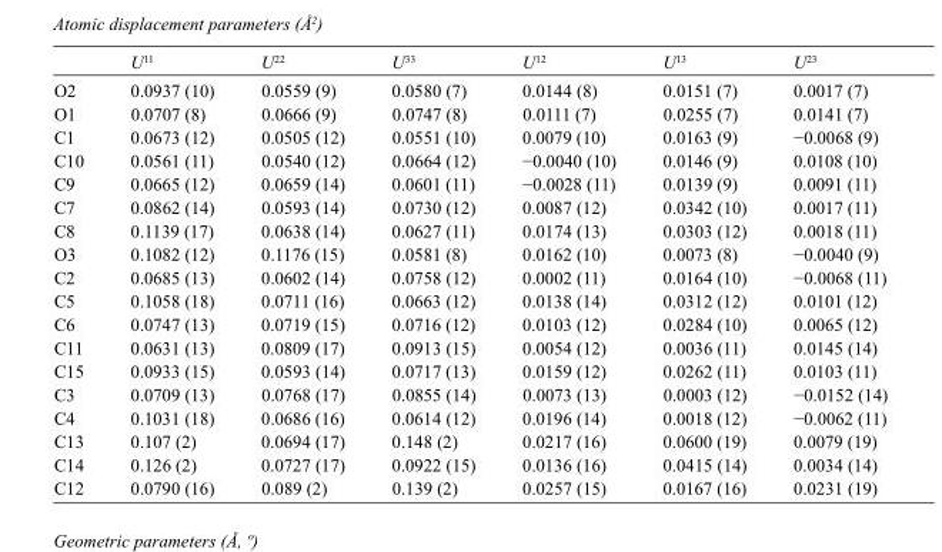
<table><thead><tr><td></td><td>U<sup>11</sup></td><td>U<sup>22</sup></td><td>U<sup>33</sup></td><td>U<sup>12</sup></td><td>U<sup>13</sup></td><td>U<sup>23</sup></td></tr></thead><tbody><tr><td>O2</td><td>0.0937 (10)</td><td>0.0559 (9)</td><td>0.0580 (7)</td><td>0.0144 (8)</td><td>0.0151 (7)</td><td>0.0017 (7)</td></tr><tr><td>O1</td><td>0.0707 (8)</td><td>0.0666 (9)</td><td>0.0747 (8)</td><td>0.0111 (7)</td><td>0.0255 (7)</td><td>0.0141 (7)</td></tr><tr><td>C1</td><td>0.0673 (12)</td><td>0.0505 (12)</td><td>0.0551 (10)</td><td>0.0079 (10)</td><td>0.0163 (9)</td><td>−0.0068 (9)</td></tr><tr><td>C10</td><td>0.0561 (11)</td><td>0.0540 (12)</td><td>0.0664 (12)</td><td>−0.0040 (10)</td><td>0.0146 (9)</td><td>0.0108 (10)</td></tr><tr><td>C9</td><td>0.0665 (12)</td><td>0.0659 (14)</td><td>0.0601 (11)</td><td>−0.0028 (11)</td><td>0.0139 (9)</td><td>0.0091 (11)</td></tr><tr><td>C7</td><td>0.0862 (14)</td><td>0.0593 (14)</td><td>0.0730 (12)</td><td>0.0087 (12)</td><td>0.0342 (10)</td><td>0.0017 (11)</td></tr><tr><td>C8</td><td>0.1139 (17)</td><td>0.0638 (14)</td><td>0.0627 (11)</td><td>0.0174 (13)</td><td>0.0303 (12)</td><td>0.0018 (11)</td></tr><tr><td>O3</td><td>0.1082 (12)</td><td>0.1176 (15)</td><td>0.0581 (8)</td><td>0.0162 (10)</td><td>0.0073 (8)</td><td>−0.0040 (9)</td></tr><tr><td>C2</td><td>0.0685 (13)</td><td>0.0602 (14)</td><td>0.0758 (12)</td><td>0.0002 (11)</td><td>0.0164 (10)</td><td>−0.0068 (11)</td></tr><tr><td>C5</td><td>0.1058 (18)</td><td>0.0711 (16)</td><td>0.0663 (12)</td><td>0.0138 (14)</td><td>0.0312 (12)</td><td>0.0101 (12)</td></tr><tr><td>C6</td><td>0.0747 (13)</td><td>0.0719 (15)</td><td>0.0716 (12)</td><td>0.0103 (12)</td><td>0.0284 (10)</td><td>0.0065 (12)</td></tr><tr><td>C11</td><td>0.0631 (13)</td><td>0.0809 (17)</td><td>0.0913 (15)</td><td>0.0054 (12)</td><td>0.0036 (11)</td><td>0.0145 (14)</td></tr><tr><td>C15</td><td>0.0933 (15)</td><td>0.0593 (14)</td><td>0.0717 (13)</td><td>0.0159 (12)</td><td>0.0262 (11)</td><td>0.0103 (11)</td></tr><tr><td>C3</td><td>0.0709 (13)</td><td>0.0768 (17)</td><td>0.0855 (14)</td><td>0.0073 (13)</td><td>0.0003 (12)</td><td>−0.0152 (14)</td></tr><tr><td>C4</td><td>0.1031 (18)</td><td>0.0686 (16)</td><td>0.0614 (12)</td><td>0.0196 (14)</td><td>0.0018 (12)</td><td>−0.0062 (11)</td></tr><tr><td>C13</td><td>0.107 (2)</td><td>0.0694 (17)</td><td>0.148 (2)</td><td>0.0217 (16)</td><td>0.0600 (19)</td><td>0.0079 (19)</td></tr><tr><td>C14</td><td>0.126 (2)</td><td>0.0727 (17)</td><td>0.0922 (15)</td><td>0.0136 (16)</td><td>0.0415 (14)</td><td>0.0034 (14)</td></tr><tr><td>C12</td><td>0.0790 (16)</td><td>0.089 (2)</td><td>0.139 (2)</td><td>0.0257 (15)</td><td>0.0167 (16)</td><td>0.0231 (19)</td></tr></tbody></table>